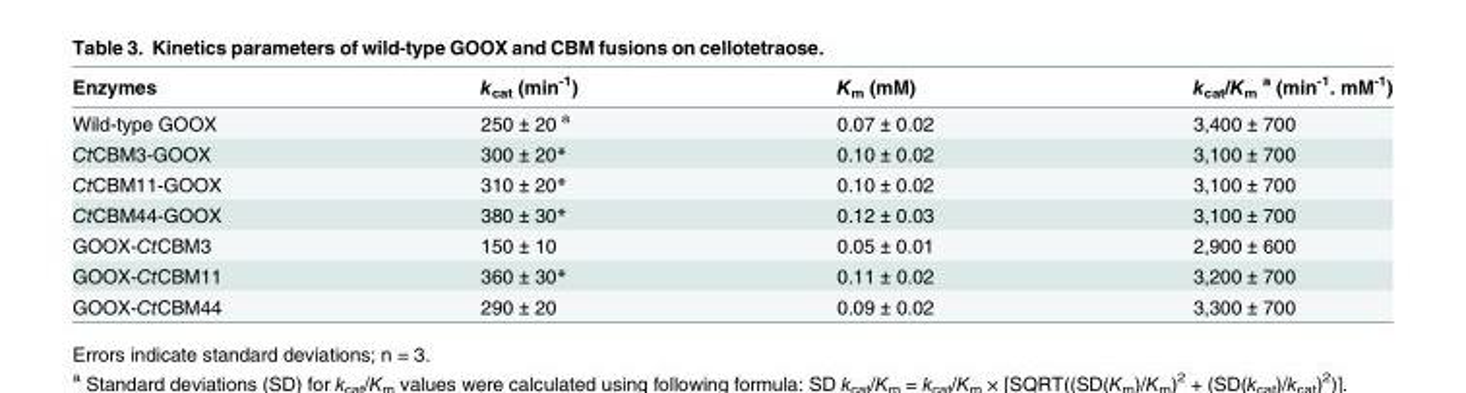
<table><thead><tr><td>Enzymes</td><td>k<sub>cat</sub> (min<sup>-1</sup>)</td><td>K<sub>m</sub> (mM)</td><td>k<sub>cat</sub>/K<sub>m</sub> <sup>a</sup> (min<sup>-1</sup>. mM<sup>-1</sup>)</td></tr></thead><tbody><tr><td>Wild-type GOOX</td><td>250 ± 20 <sup>a</sup></td><td>0.07 ± 0.02</td><td>3,400 ± 700</td></tr><tr><td>CtCBM3-GOOX</td><td>300 ± 20*</td><td>0.10 ± 0.02</td><td>3,100 ± 700</td></tr><tr><td>CtCBM11-GOOX</td><td>310 ± 20*</td><td>0.10 ± 0.02</td><td>3,100 ± 700</td></tr><tr><td>CtCBM44-GOOX</td><td>380 ± 30*</td><td>0.12 ± 0.03</td><td>3,100 ± 700</td></tr><tr><td>GOOX-CtCBM3</td><td>150 ± 10</td><td>0.05 ± 0.01</td><td>2,900 ± 600</td></tr><tr><td>GOOX-CtCBM11</td><td>360 ± 30*</td><td>0.11 ± 0.02</td><td>3,200 ± 700</td></tr><tr><td>GOOX-CtCBM44</td><td>290 ± 20</td><td>0.09 ± 0.02</td><td>3,300 ± 700</td></tr></tbody></table>